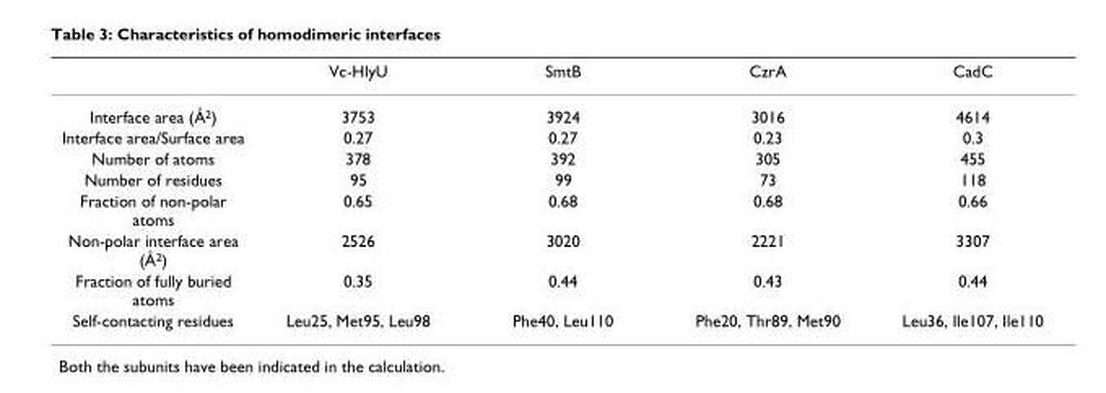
<table><thead><tr><td></td><td>Vc-HlyU</td><td>SmtB</td><td>CzrA</td><td>CadC</td></tr></thead><tbody><tr><td>Interface area (Å2)</td><td>3753</td><td>3924</td><td>3016</td><td>4614</td></tr><tr><td>Interface area/Surface area</td><td>0.27</td><td>0.27</td><td>0.23</td><td>0.3</td></tr><tr><td>Number of atoms</td><td>378</td><td>392</td><td>305</td><td>455</td></tr><tr><td>Number of residues</td><td>95</td><td>99</td><td>73</td><td>118</td></tr><tr><td>Fraction of non-polar atoms</td><td>0.65</td><td>0.68</td><td>0.68</td><td>0.66</td></tr><tr><td>Non-polar interface area (Å2)</td><td>2526</td><td>3020</td><td>2221</td><td>3307</td></tr><tr><td>Fraction of fully buried atoms</td><td>0.35</td><td>0.44</td><td>0.43</td><td>0.44</td></tr><tr><td>Self-contacting residues</td><td>Leu25, Met95, Leu98</td><td>Phe40, Leu110</td><td>Phe20, Thr89, Met90</td><td>Leu36, Ile107, Ile110</td></tr></tbody></table>